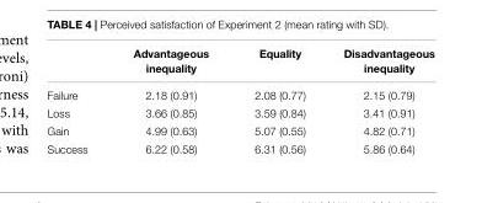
<table><thead><tr><td></td><td>Advantageous inequality</td><td>Equality</td><td>Disadvantageous inequality</td></tr></thead><tbody><tr><td>Failure</td><td>2.18 (0.91)</td><td>2.08 (0.77)</td><td>2.15 (0.79)</td></tr><tr><td>Loss</td><td>3.66 (0.85)</td><td>3.59 (0.84)</td><td>3.41 (0.91)</td></tr><tr><td>Gain</td><td>4.99 (0.63)</td><td>5.07 (0.55)</td><td>4.82 (0.71)</td></tr><tr><td>Success</td><td>6.22 (0.58)</td><td>6.31 (0.56)</td><td>5.86 (0.64)</td></tr></tbody></table>